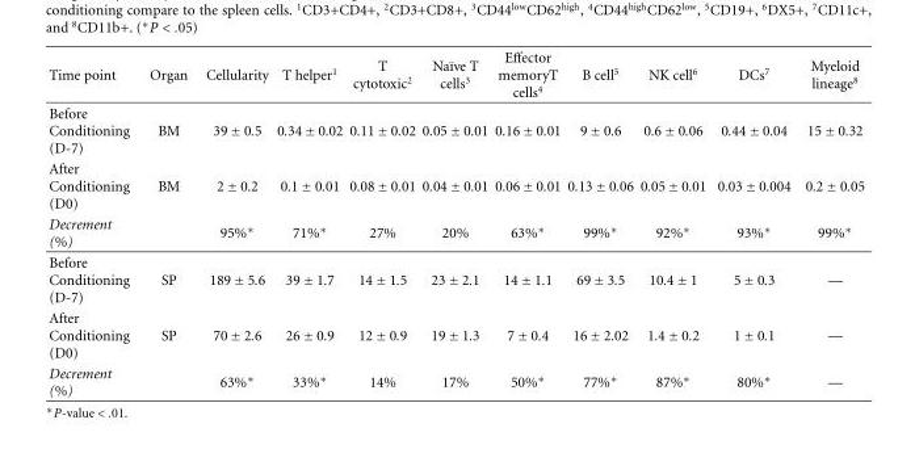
<table><thead><tr><td>Time point</td><td>Organ</td><td>Cellularity</td><td>T helper<sup>1</sup></td><td>T cytotoxic<sup>2</sup></td><td>Na¨ıve T cells3</td><td>Effector memoryT cells<sup>4</sup></td><td>B cell<sup>5</sup></td><td>NK cell<sup>6</sup></td><td>DCs<sup>7</sup></td><td>Myeloid lineage<sup>8</sup></td></tr></thead><tbody><tr><td>Before Conditioning (D-7)</td><td>BM</td><td>39 ± 0.5</td><td>0.34 ± 0.02</td><td>0.11 ± 0.02</td><td>0.05 ± 0.01</td><td>0.16 ± 0.01</td><td>9 ± 0.6</td><td>0.6 ± 0.06</td><td>0.44 ± 0.04</td><td>15 ± 0.32</td></tr><tr><td>After Conditioning (D0)</td><td>BM</td><td>2 ± 0.2</td><td>0.1 ± 0.01</td><td>0.08 ± 0.01</td><td>0.04 ± 0.01</td><td>0.06 ± 0.01</td><td>0.13 ± 0.06</td><td>0.05 ± 0.01</td><td>0.03 ± 0.004</td><td>0.2 ± 0.05</td></tr><tr><td>Decrement (%)</td><td></td><td>95%∗</td><td>71%∗</td><td>27%</td><td>20%</td><td>63%∗</td><td>99%∗</td><td>92%∗</td><td>93%∗</td><td>99%∗</td></tr><tr><td>Before Conditioning (D-7)</td><td>SP</td><td>189 ± 5.6</td><td>39 ± 1.7</td><td>14 ± 1.5</td><td>23 ± 2.1</td><td>14 ± 1.1</td><td>69 ± 3.5</td><td>10.4 ± 1</td><td>5 ± 0.3</td><td>—</td></tr><tr><td>After Conditioning (D0)</td><td>SP</td><td>70 ± 2.6</td><td>26 ± 0.9</td><td>12 ± 0.9</td><td>19 ± 1.3</td><td>7 ± 0.4</td><td>16 ± 2.02</td><td>1.4 ± 0.2</td><td>1 ± 0.1</td><td>—</td></tr><tr><td>Decrement (%)</td><td></td><td>63%∗</td><td>33%∗</td><td>14%</td><td>17%</td><td>50%∗</td><td>77%∗</td><td>87%∗</td><td>80%∗</td><td>—</td></tr></tbody></table>